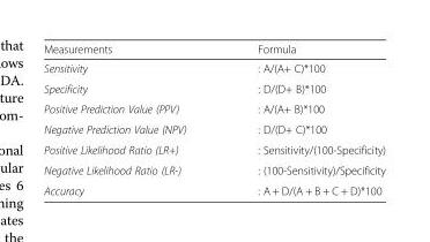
<table><thead><tr><td>Measurements</td><td>Formula</td></tr></thead><tbody><tr><td>Sensitivity</td><td>: A/(A+ C)*100</td></tr><tr><td>Specificity</td><td>: D/(D+ B)*100</td></tr><tr><td>Positive Prediction Value (PPV)</td><td>: A/(A+ B)*100</td></tr><tr><td>Negative Prediction Value (NPV)</td><td>: D/(D+ C)*100</td></tr><tr><td>Positive Likelihood Ratio (LR+)</td><td>: Sensitivity/(100-Specificity)</td></tr><tr><td>Negative Likelihood Ratio (LR-)</td><td>: (100-Sensitivity)/Specificity</td></tr><tr><td>Accuracy</td><td>: A + D/(A + B + C + D)*100</td></tr></tbody></table>